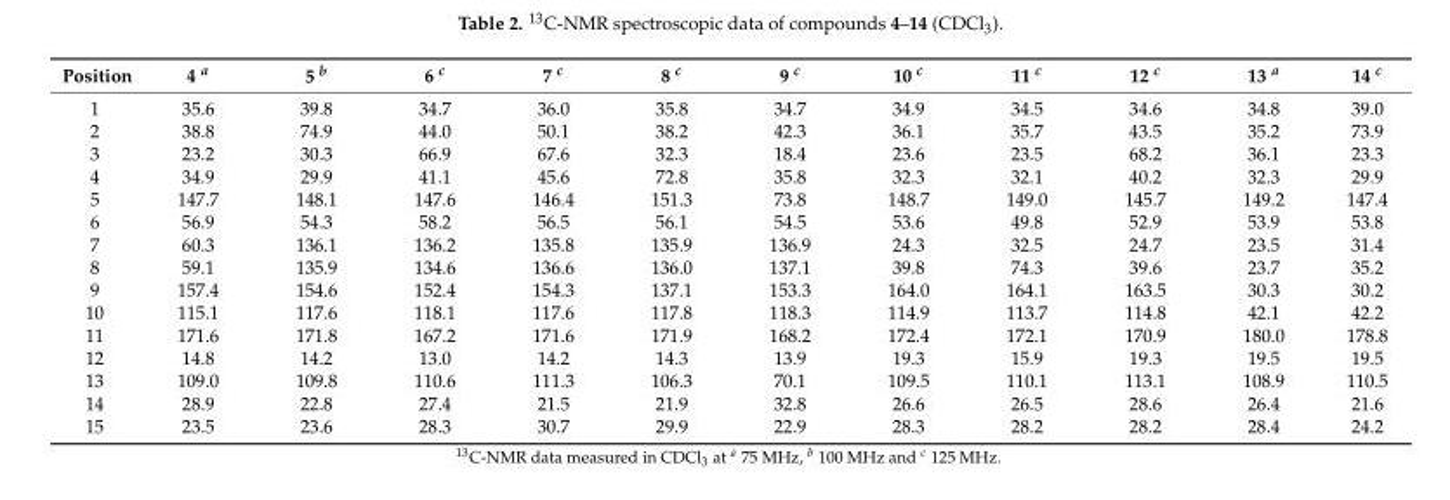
<table><thead><tr><td>Position</td><td>4 <sup>a</sup></td><td>5 <sup>b</sup></td><td>6 <sup>c</sup></td><td>7 <sup>c</sup></td><td>8 <sup>c</sup></td><td>9 <sup>c</sup></td><td>10 <sup>c</sup></td><td>11 <sup>c</sup></td><td>12 <sup>c</sup></td><td>13 <sup>a</sup></td><td>14 <sup>c</sup></td></tr></thead><tbody><tr><td>1</td><td>35.6</td><td>39.8</td><td>34.7</td><td>36.0</td><td>35.8</td><td>34.7</td><td>34.9</td><td>34.5</td><td>34.6</td><td>34.8</td><td>39.0</td></tr><tr><td>2</td><td>38.8</td><td>74.9</td><td>44.0</td><td>50.1</td><td>38.2</td><td>42.3</td><td>36.1</td><td>35.7</td><td>43.5</td><td>35.2</td><td>73.9</td></tr><tr><td>3</td><td>23.2</td><td>30.3</td><td>66.9</td><td>67.6</td><td>32.3</td><td>18.4</td><td>23.6</td><td>23.5</td><td>68.2</td><td>36.1</td><td>23.3</td></tr><tr><td>4</td><td>34.9</td><td>29.9</td><td>41.1</td><td>45.6</td><td>72.8</td><td>35.8</td><td>32.3</td><td>32.1</td><td>40.2</td><td>32.3</td><td>29.9</td></tr><tr><td>5</td><td>147.7</td><td>148.1</td><td>147.6</td><td>146.4</td><td>151.3</td><td>73.8</td><td>148.7</td><td>149.0</td><td>145.7</td><td>149.2</td><td>147.4</td></tr><tr><td>6</td><td>56.9</td><td>54.3</td><td>58.2</td><td>56.5</td><td>56.1</td><td>54.5</td><td>53.6</td><td>49.8</td><td>52.9</td><td>53.9</td><td>53.8</td></tr><tr><td>7</td><td>60.3</td><td>136.1</td><td>136.2</td><td>135.8</td><td>135.9</td><td>136.9</td><td>24.3</td><td>32.5</td><td>24.7</td><td>23.5</td><td>31.4</td></tr><tr><td>8</td><td>59.1</td><td>135.9</td><td>134.6</td><td>136.6</td><td>136.0</td><td>137.1</td><td>39.8</td><td>74.3</td><td>39.6</td><td>23.7</td><td>35.2</td></tr><tr><td>9</td><td>157.4</td><td>154.6</td><td>152.4</td><td>154.3</td><td>137.1</td><td>153.3</td><td>164.0</td><td>164.1</td><td>163.5</td><td>30.3</td><td>30.2</td></tr><tr><td>10</td><td>115.1</td><td>117.6</td><td>118.1</td><td>117.6</td><td>117.8</td><td>118.3</td><td>114.9</td><td>113.7</td><td>114.8</td><td>42.1</td><td>42.2</td></tr><tr><td>11</td><td>171.6</td><td>171.8</td><td>167.2</td><td>171.6</td><td>171.9</td><td>168.2</td><td>172.4</td><td>172.1</td><td>170.9</td><td>180.0</td><td>178.8</td></tr><tr><td>12</td><td>14.8</td><td>14.2</td><td>13.0</td><td>14.2</td><td>14.3</td><td>13.9</td><td>19.3</td><td>15.9</td><td>19.3</td><td>19.5</td><td>19.5</td></tr><tr><td>13</td><td>109.0</td><td>109.8</td><td>110.6</td><td>111.3</td><td>106.3</td><td>70.1</td><td>109.5</td><td>110.1</td><td>113.1</td><td>108.9</td><td>110.5</td></tr><tr><td>14</td><td>28.9</td><td>22.8</td><td>27.4</td><td>21.5</td><td>21.9</td><td>32.8</td><td>26.6</td><td>26.5</td><td>28.6</td><td>26.4</td><td>21.6</td></tr><tr><td>15</td><td>23.5</td><td>23.6</td><td>28.3</td><td>30.7</td><td>29.9</td><td>22.9</td><td>28.3</td><td>28.2</td><td>28.2</td><td>28.4</td><td>24.2</td></tr></tbody></table>